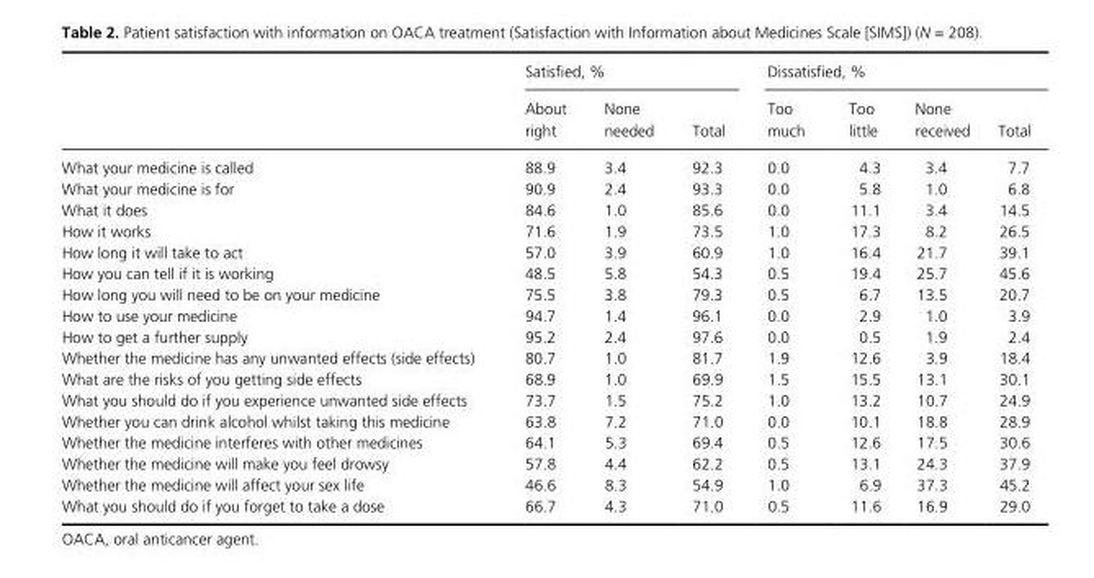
<table><thead><tr><td rowspan="2"></td><td colspan="3">Satisfied, %</td><td colspan="4">Dissatisfied, %</td></tr><tr><td>About right</td><td>None needed</td><td>Total</td><td>Too much</td><td>Too little</td><td>None received</td><td>Total</td></tr></thead><tbody><tr><td>What your medicine is called</td><td>88.9</td><td>3.4</td><td>92.3</td><td>0.0</td><td>4.3</td><td>3.4</td><td>7.7</td></tr><tr><td>What your medicine is for</td><td>90.9</td><td>2.4</td><td>93.3</td><td>0.0</td><td>5.8</td><td>1.0</td><td>6.8</td></tr><tr><td>What it does</td><td>84.6</td><td>1.0</td><td>85.6</td><td>0.0</td><td>11.1</td><td>3.4</td><td>14.5</td></tr><tr><td>How it works</td><td>71.6</td><td>1.9</td><td>73.5</td><td>1.0</td><td>17.3</td><td>8.2</td><td>26.5</td></tr><tr><td>How long it will take to act</td><td>57.0</td><td>3.9</td><td>60.9</td><td>1.0</td><td>16.4</td><td>21.7</td><td>39.1</td></tr><tr><td>How you can tell if it is working</td><td>48.5</td><td>5.8</td><td>54.3</td><td>0.5</td><td>19.4</td><td>25.7</td><td>45.6</td></tr><tr><td>How long you will need to be on your medicine</td><td>75.5</td><td>3.8</td><td>79.3</td><td>0.5</td><td>6.7</td><td>13.5</td><td>20.7</td></tr><tr><td>How to use your medicine</td><td>94.7</td><td>1.4</td><td>96.1</td><td>0.0</td><td>2.9</td><td>1.0</td><td>3.9</td></tr><tr><td>How to get a further supply</td><td>95.2</td><td>2.4</td><td>97.6</td><td>0.0</td><td>0.5</td><td>1.9</td><td>2.4</td></tr><tr><td>Whether the medicine has any unwanted effects (side effects)</td><td>80.7</td><td>1.0</td><td>81.7</td><td>1.9</td><td>12.6</td><td>3.9</td><td>18.4</td></tr><tr><td>What are the risks of you getting side effects</td><td>68.9</td><td>1.0</td><td>69.9</td><td>1.5</td><td>15.5</td><td>13.1</td><td>30.1</td></tr><tr><td>What you should do if you experience unwanted side effects</td><td>73.7</td><td>1.5</td><td>75.2</td><td>1.0</td><td>13.2</td><td>10.7</td><td>24.9</td></tr><tr><td>Whether you can drink alcohol whilst taking this medicine</td><td>63.8</td><td>7.2</td><td>71.0</td><td>0.0</td><td>10.1</td><td>18.8</td><td>28.9</td></tr><tr><td>Whether the medicine interferes with other medicines</td><td>64.1</td><td>5.3</td><td>69.4</td><td>0.5</td><td>12.6</td><td>17.5</td><td>30.6</td></tr><tr><td>Whether the medicine will make you feel drowsy</td><td>57.8</td><td>4.4</td><td>62.2</td><td>0.5</td><td>13.1</td><td>24.3</td><td>37.9</td></tr><tr><td>Whether the medicine will affect your sex life</td><td>46.6</td><td>8.3</td><td>54.9</td><td>1.0</td><td>6.9</td><td>37.3</td><td>45.2</td></tr><tr><td>What you should do if you forget to take a dose</td><td>66.7</td><td>4.3</td><td>71.0</td><td>0.5</td><td>11.6</td><td>16.9</td><td>29.0</td></tr></tbody></table>